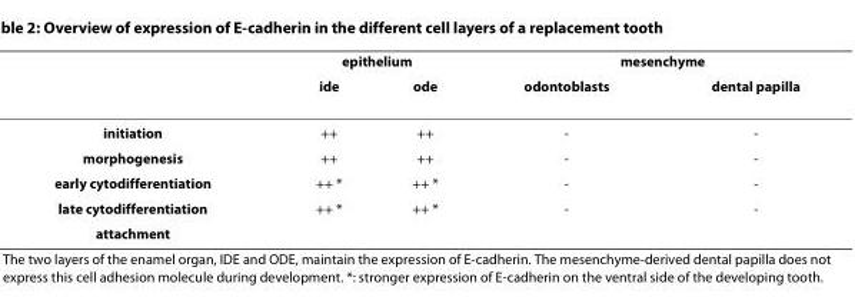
<table><thead><tr><td rowspan="2"></td><td colspan="2">epithelium</td><td colspan="2">mesenchyme</td></tr><tr><td>ide</td><td>ode</td><td>odontoblasts</td><td>dental papilla</td></tr></thead><tbody><tr><td>initiation</td><td>++</td><td>++</td><td>-</td><td>-</td></tr><tr><td>morphogenesis</td><td>++</td><td>++</td><td>-</td><td>-</td></tr><tr><td>early cytodifferentiation</td><td>++ *</td><td>++ *</td><td>-</td><td>-</td></tr><tr><td>late cytodifferentiation</td><td>++ *</td><td>++ *</td><td>-</td><td>-</td></tr><tr><td>attachment</td><td></td><td></td><td></td><td></td></tr></tbody></table>